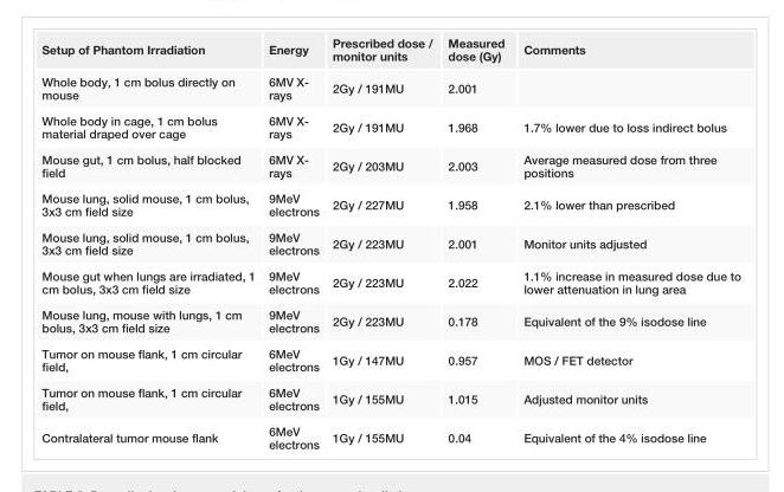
<table><tbody><tr><td>Setup of Phantom Irradiation</td><td>Energy</td><td>Prescribed dose / monitor units</td><td>Measured dose (Gy)</td><td>Comments</td></tr><tr><td>Whole body, 1 cm bolus directly on mouse</td><td>6MV X- rays</td><td>2Gy / 191MU</td><td>2.001</td><td></td></tr><tr><td>Whole body in cage, 1 cm bolus material draped over cage</td><td>6MV X- rays</td><td>2Gy / 191MU</td><td>1.968</td><td>1.7% lower due to loss indirect bolus</td></tr><tr><td>Mouse gut, 1 cm bolus, half blocked field</td><td>6MV X- rays</td><td>2Gy / 203MU</td><td>2.003</td><td>Average measured dose from three positions</td></tr><tr><td>Mouse lung, solid mouse, 1 cm bolus, 3x3 cm field size</td><td>9MeV electrons</td><td>2Gy / 227MU</td><td>1.958</td><td>2.1% lower than prescribed</td></tr><tr><td>Mouse lung, solid mouse, 1 cm bolus, 3x3 cm field size</td><td>9MeV electrons</td><td>2Gy / 223MU</td><td>2.001</td><td>Monitor units adjusted</td></tr><tr><td>Mouse gut when lungs are irradiated, 1 cm bolus, 3x3 cm field size</td><td>9MeV electrons</td><td>2Gy / 223MU</td><td>2.022</td><td>1.1% increase in measured dose due to lower attenuation in lung area</td></tr><tr><td>Mouse lung, mouse with lungs, 1 cm bolus, 3x3 cm field size</td><td>9MeV electrons</td><td>2Gy / 223MU</td><td>0.178</td><td>Equivalent of the 9% isodose line</td></tr><tr><td>Tumor on mouse flank, 1 cm circular field,</td><td>6MeV electrons</td><td>1Gy / 147MU</td><td>0.957</td><td>MOS / FET detector</td></tr><tr><td>Tumor on mouse flank, 1 cm circular field,</td><td>6MeV electrons</td><td>1Gy / 155MU</td><td>1.015</td><td>Adjusted monitor units</td></tr><tr><td>Contralateral tumor mouse flank</td><td>6MeV electrons</td><td>1Gy / 155MU</td><td>0.04</td><td>Equivalent of the 4% isodose line</td></tr></tbody></table>